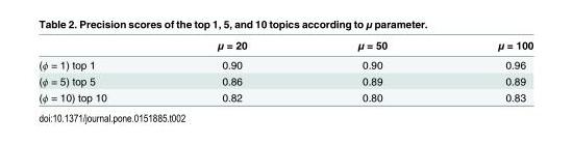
<table><thead><tr><td></td><td>μ = 20</td><td>μ = 50</td><td>μ = 100</td></tr></thead><tbody><tr><td>(ϕ = 1) top 1</td><td>0.90</td><td>0.90</td><td>0.96</td></tr><tr><td>(ϕ = 5) top 5</td><td>0.86</td><td>0.89</td><td>0.89</td></tr><tr><td>(ϕ = 10) top 10</td><td>0.82</td><td>0.80</td><td>0.83</td></tr></tbody></table>